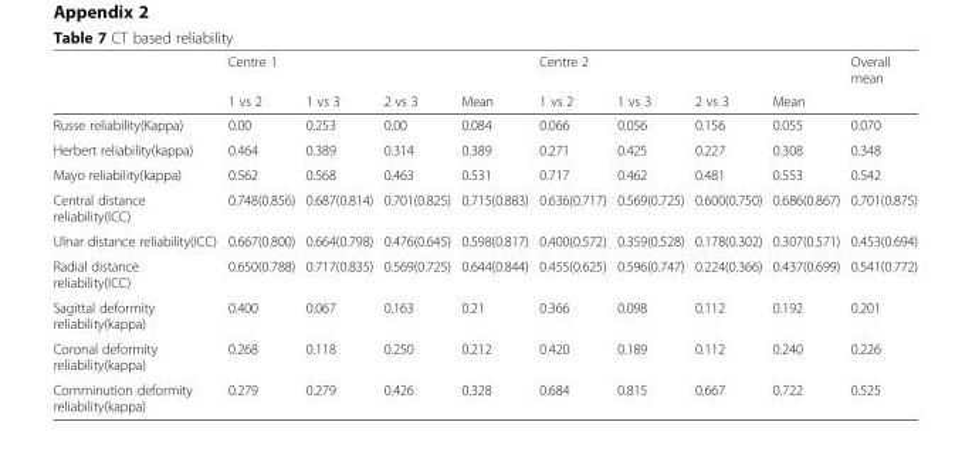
<table><thead><tr><td rowspan="2"></td><td rowspan="2">Centre 1 1 vs 2</td><td rowspan="2">1 vs 3</td><td rowspan="2">2 vs 3</td><td rowspan="2">Mean</td><td rowspan="2">Centre 2 1 vs 2</td><td rowspan="2">1 vs 3</td><td rowspan="2">2 vs 3</td><td rowspan="2">Mean</td><td rowspan="2">Overall mean</td></tr><tr></tr></thead><tbody><tr><td>Russe reliability(Kappa)</td><td>0.00</td><td>0.253</td><td>0.00</td><td>0.084</td><td>0.066</td><td>0.056</td><td>0.156</td><td>0.055</td><td>0.070</td></tr><tr><td>Herbert reliability(kappa)</td><td>0.464</td><td>0.389</td><td>0.314</td><td>0.389</td><td>0.271</td><td>0.425</td><td>0.227</td><td>0.308</td><td>0.348</td></tr><tr><td>Mayo reliability(kappa)</td><td>0.562</td><td>0.568</td><td>0.463</td><td>0.531</td><td>0.717</td><td>0.462</td><td>0.481</td><td>0.553</td><td>0.542</td></tr><tr><td>Central distance reliability(ICC)</td><td>0.748(0.856)</td><td>0.687(0.814)</td><td>0.701(0.825)</td><td>0.715(0.883)</td><td>0.636(0.717)</td><td>0.569(0.725)</td><td>0.600(0.750)</td><td>0.686(0.867)</td><td>0.701(0.875)</td></tr><tr><td>Ulnar distance reliability(ICC)</td><td>0.667(0.800)</td><td>0.664(0.798)</td><td>0.476(0.645)</td><td>0.598(0.817)</td><td>0.400(0.572)</td><td>0.359(0.528)</td><td>0.178(0.302)</td><td>0.307(0.571)</td><td>0.453(0.694)</td></tr><tr><td>Radial distance reliability(ICC)</td><td>0.650(0.788)</td><td>0.717(0.835)</td><td>0.569(0.725)</td><td>0.644(0.844)</td><td>0.455(0.625)</td><td>0.596(0.747)</td><td>0.224(0.366)</td><td>0.437(0.699)</td><td>0.541(0.772)</td></tr><tr><td>Sagittal deformity reliability(kappa)</td><td>0.400</td><td>0.067</td><td>0.163</td><td>0.21</td><td>0.366</td><td>0.098</td><td>0.112</td><td>0.192</td><td>0.201</td></tr><tr><td>Coronal deformity reliability(kappa)</td><td>0.268</td><td>0.118</td><td>0.250</td><td>0.212</td><td>0.420</td><td>0.189</td><td>0.112</td><td>0.240</td><td>0.226</td></tr><tr><td>Comminution deformity reliability(kappa)</td><td>0.279</td><td>0.279</td><td>0.426</td><td>0.328</td><td>0.684</td><td>0.815</td><td>0.667</td><td>0.722</td><td>0.525</td></tr></tbody></table>